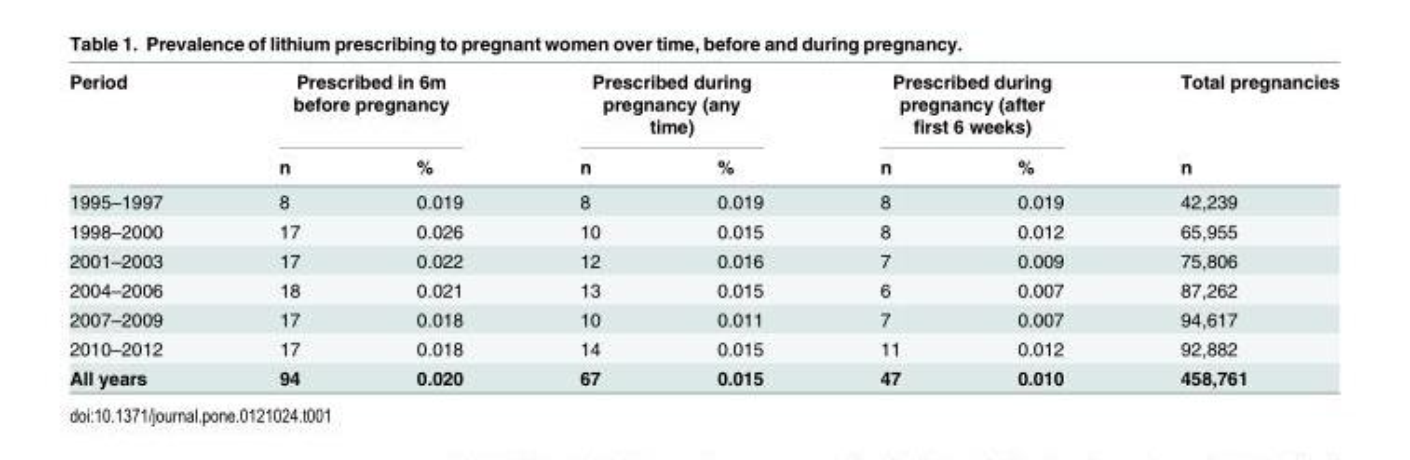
<table><thead><tr><td rowspan="2">Period</td><td colspan="2">Prescribed in 6m before pregnancy</td><td colspan="2">Prescribed during pregnancy (any time)</td><td colspan="2">Prescribed during pregnancy (after first 6 weeks)</td><td rowspan="2">Total pregnancies n</td></tr><tr><td>n</td><td>%</td><td>n</td><td>%</td><td>n</td><td>%</td></tr></thead><tbody><tr><td>1995–1997</td><td>8</td><td>0.019</td><td>8</td><td>0.019</td><td>8</td><td>0.019</td><td>42,239</td></tr><tr><td>1998–2000</td><td>17</td><td>0.026</td><td>10</td><td>0.015</td><td>8</td><td>0.012</td><td>65,955</td></tr><tr><td>2001–2003</td><td>17</td><td>0.022</td><td>12</td><td>0.016</td><td>7</td><td>0.009</td><td>75,806</td></tr><tr><td>2004–2006</td><td>18</td><td>0.021</td><td>13</td><td>0.015</td><td>6</td><td>0.007</td><td>87,262</td></tr><tr><td>2007–2009</td><td>17</td><td>0.018</td><td>10</td><td>0.011</td><td>7</td><td>0.007</td><td>94,617</td></tr><tr><td>2010–2012</td><td>17</td><td>0.018</td><td>14</td><td>0.015</td><td>11</td><td>0.012</td><td>92,882</td></tr><tr><td>All years</td><td>94</td><td>0.020</td><td>67</td><td>0.015</td><td>47</td><td>0.010</td><td>458,761</td></tr></tbody></table>